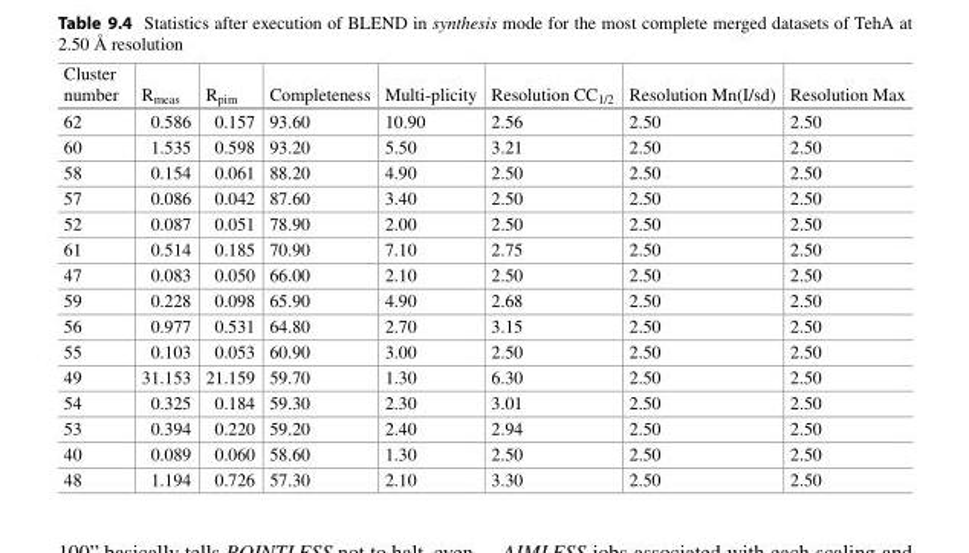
<table><thead><tr><td>Cluster number</td><td>R<sub>meas</sub></td><td>R<sub>pim</sub></td><td>Completeness</td><td>Multi-plicity</td><td>Resolution CC<sub>1/2</sub></td><td>Resolution Mn(I/sd)</td><td>Resolution Max</td></tr></thead><tbody><tr><td>62</td><td>0.586</td><td>0.157</td><td>93.60</td><td>10.90</td><td>2.56</td><td>2.50</td><td>2.50</td></tr><tr><td>60</td><td>1.535</td><td>0.598</td><td>93.20</td><td>5.50</td><td>3.21</td><td>2.50</td><td>2.50</td></tr><tr><td>58</td><td>0.154</td><td>0.061</td><td>88.20</td><td>4.90</td><td>2.50</td><td>2.50</td><td>2.50</td></tr><tr><td>57</td><td>0.086</td><td>0.042</td><td>87.60</td><td>3.40</td><td>2.50</td><td>2.50</td><td>2.50</td></tr><tr><td>52</td><td>0.087</td><td>0.051</td><td>78.90</td><td>2.00</td><td>2.50</td><td>2.50</td><td>2.50</td></tr><tr><td>61</td><td>0.514</td><td>0.185</td><td>70.90</td><td>7.10</td><td>2.75</td><td>2.50</td><td>2.50</td></tr><tr><td>47</td><td>0.083</td><td>0.050</td><td>66.00</td><td>2.10</td><td>2.50</td><td>2.50</td><td>2.50</td></tr><tr><td>59</td><td>0.228</td><td>0.098</td><td>65.90</td><td>4.90</td><td>2.68</td><td>2.50</td><td>2.50</td></tr><tr><td>56</td><td>0.977</td><td>0.531</td><td>64.80</td><td>2.70</td><td>3.15</td><td>2.50</td><td>2.50</td></tr><tr><td>55</td><td>0.103</td><td>0.053</td><td>60.90</td><td>3.00</td><td>2.50</td><td>2.50</td><td>2.50</td></tr><tr><td>49</td><td>31.153</td><td>21.159</td><td>59.70</td><td>1.30</td><td>6.30</td><td>2.50</td><td>2.50</td></tr><tr><td>54</td><td>0.325</td><td>0.184</td><td>59.30</td><td>2.30</td><td>3.01</td><td>2.50</td><td>2.50</td></tr><tr><td>53</td><td>0.394</td><td>0.220</td><td>59.20</td><td>2.40</td><td>2.94</td><td>2.50</td><td>2.50</td></tr><tr><td>40</td><td>0.089</td><td>0.060</td><td>58.60</td><td>1.30</td><td>2.50</td><td>2.50</td><td>2.50</td></tr><tr><td>48</td><td>1.194</td><td>0.726</td><td>57.30</td><td>2.10</td><td>3.30</td><td>2.50</td><td>2.50</td></tr></tbody></table>